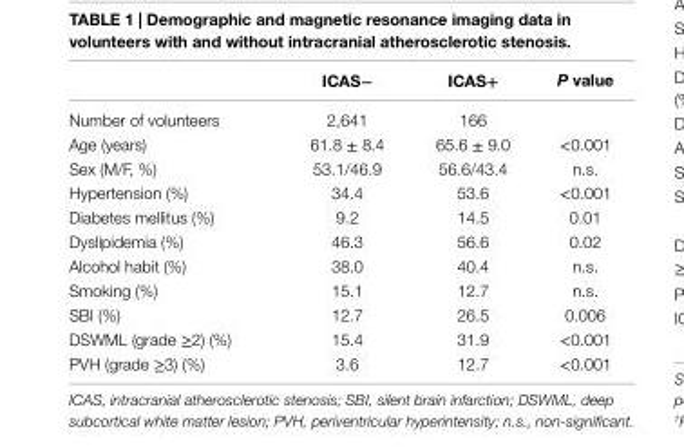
<table><thead><tr><td></td><td>icas−</td><td>icas+</td><td>P value</td></tr></thead><tbody><tr><td>Number of volunteers</td><td>2,641</td><td>166</td><td></td></tr><tr><td>Age (years)</td><td>61.8 ± 8.4</td><td>65.6 ± 9.0</td><td>&lt;0.001</td></tr><tr><td>Sex (M/F, %)</td><td>53.1/46.9</td><td>56.6/43.4</td><td>n.s.</td></tr><tr><td>Hypertension (%)</td><td>34.4</td><td>53.6</td><td>&lt;0.001</td></tr><tr><td>Diabetes mellitus (%)</td><td>9.2</td><td>14.5</td><td>0.01</td></tr><tr><td>Dyslipidemia (%)</td><td>46.3</td><td>56.6</td><td>0.02</td></tr><tr><td>Alcohol habit (%)</td><td>38.0</td><td>40.4</td><td>n.s.</td></tr><tr><td>Smoking (%)</td><td>15.1</td><td>12.7</td><td>n.s.</td></tr><tr><td>SBI (%)</td><td>12.7</td><td>26.5</td><td>0.006</td></tr><tr><td>DSWML (grade ≥2) (%)</td><td>15.4</td><td>31.9</td><td>&lt;0.001</td></tr><tr><td>PVH (grade ≥3) (%)</td><td>3.6</td><td>12.7</td><td>&lt;0.001</td></tr></tbody></table>